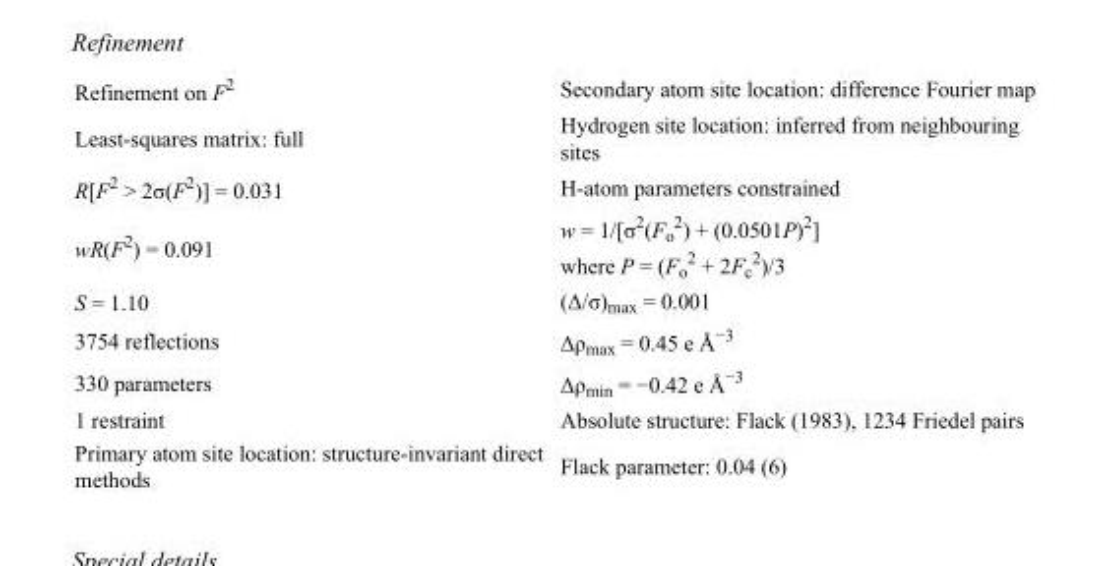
<table><tbody><tr><td>Refinement on F<sup>2</sup></td><td>Secondary atom site location: difference Fourier map</td></tr><tr><td>Least-squares matrix: full</td><td>Hydrogen site location: inferred from neighbouring sites</td></tr><tr><td>R[F<sup>2</sup> &gt; 2σ(F<sup>2</sup>)] = 0.031</td><td>H-atom parameters constrained</td></tr><tr><td>wR(F<sup>2</sup>) = 0.091</td><td>w = 1/[σ<sup>2</sup>(F<sub>o</sub> <sup>2</sup>) + (0.0501P)<sup>2</sup>] where P = (F<sub>o</sub> <sup>2</sup> + 2F<sub>c</sub> <sup>2</sup>)/3</td></tr><tr><td>S = 1.10</td><td>(Δ/σ)<sub>max</sub> = 0.001</td></tr><tr><td>3754 reflections</td><td>Δρ<sub>max</sub> = 0.45 e Å<sup>−3</sup></td></tr><tr><td>330 parameters</td><td>Δρ<sub>min</sub> = −0.42 e Å<sup>−3</sup></td></tr><tr><td>1 restraint</td><td>Absolute structure: Flack (1983), 1234 Friedel pairs</td></tr><tr><td>Primary atom site location: structure-invariant direct methods</td><td>Flack parameter: 0.04 (6)</td></tr></tbody></table>